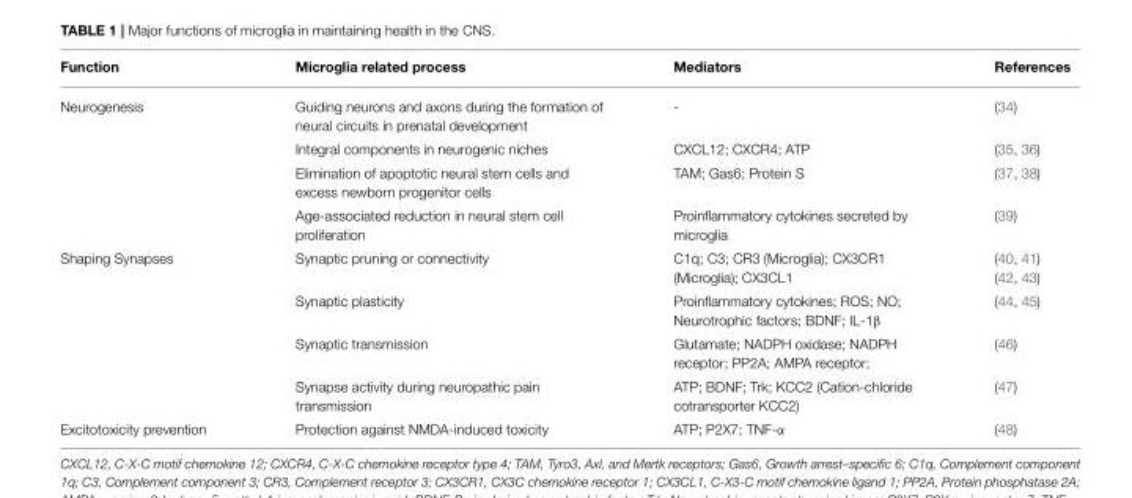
<table><thead><tr><td>Function</td><td>Microglia related process</td><td>Mediators</td><td>References</td></tr></thead><tbody><tr><td rowspan="4">Neurogenesis</td><td>Guiding neurons and axons during the formation of neural circuits in prenatal development</td><td>-</td><td>(34)</td></tr><tr><td>Integral components in neurogenic niches</td><td>CXCL12; CXCR4; ATP</td><td>(35, 36)</td></tr><tr><td>Elimination of apoptotic neural stem cells and excess newborn progenitor cells</td><td>TAM; Gas6; Protein S</td><td>(37, 38)</td></tr><tr><td>Age-associated reduction in neural stem cell proliferation</td><td>Proinflammatory cytokines secreted by microglia</td><td>(39)</td></tr><tr><td rowspan="4">Shaping Synapses</td><td>Synaptic pruning or connectivity</td><td>C1q; C3; CR3 (Microglia); CX3CR1 (Microglia); CX3CL1</td><td>(40, 41) (42, 43)</td></tr><tr><td>Synaptic plasticity</td><td>Proinflammatory cytokines; ROS; NO; Neurotrophic factors; BDNF; IL-1β</td><td>(44, 45)</td></tr><tr><td>Synaptic transmission</td><td>Glutamate; NADPH oxidase; NADPH receptor; PP2A; AMPA receptor;</td><td>(46)</td></tr><tr><td>Synapse activity during neuropathic pain transmission</td><td>ATP; BDNF; Trk; KCC2 (Cation-chloride cotransporter KCC2)</td><td>(47)</td></tr><tr><td>Excitotoxicity prevention</td><td>Protection against NMDA-induced toxicity</td><td>ATP; P2X7; TNF-α</td><td>(48)</td></tr></tbody></table>